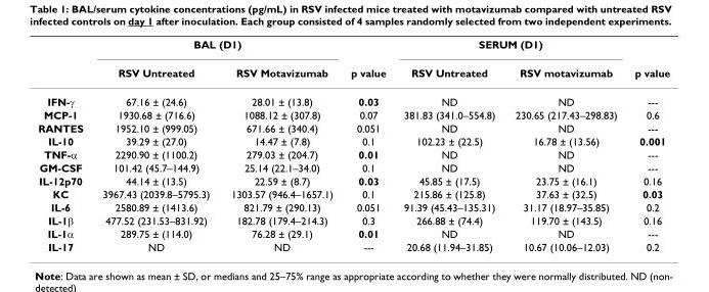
<table><thead><tr><td rowspan="2"></td><td colspan="2">BAL (D1)</td><td rowspan="2">p value</td><td colspan="2">SERUM (D1)</td><td rowspan="2">p value</td></tr><tr><td>RSV Untreated</td><td>RSV Motavizumab</td><td>RSV Untreated</td><td>RSV motavizumab</td></tr></thead><tbody><tr><td>IFN-γ</td><td>67.16 ± (24.6)</td><td>28.01 ± (13.8)</td><td>0.03</td><td>ND</td><td>ND</td><td>---</td></tr><tr><td>MCP-1</td><td>1930.68 ± (716.6)</td><td>1088.12 ± (307.8)</td><td>0.07</td><td>381.83 (341.0–554.8)</td><td>230.65 (217.43–298.83)</td><td>0.6</td></tr><tr><td>RANTES</td><td>1952.10 ± (999.05)</td><td>671.66 ± (340.4)</td><td>0.051</td><td>ND</td><td>ND</td><td>---</td></tr><tr><td>IL-10</td><td>39.29 ± (27.0)</td><td>14.47 ± (7.8)</td><td>0.1</td><td>102.23 ± (22.5)</td><td>16.78 ± (13.56)</td><td>0.001</td></tr><tr><td>TNF-α</td><td>2290.90 ± (1100.2)</td><td>279.03 ± (204.7)</td><td>0.01</td><td>ND</td><td>ND</td><td>---</td></tr><tr><td>GM-CSF</td><td>101.42 (45.7–144.9)</td><td>25.14 (22.1–34.0)</td><td>0.1</td><td>ND</td><td>ND</td><td>---</td></tr><tr><td>IL-12p70</td><td>44.14 ± (13.5)</td><td>22.59 ± (8.7)</td><td>0.03</td><td>45.85 ± (17.5)</td><td>23.75 ± (16.1)</td><td>0.16</td></tr><tr><td>KC</td><td>3967.43 (2039.8–5795.3)</td><td>1303.57 (946.4–1657.1)</td><td>0.1</td><td>215.86 ± (125.8)</td><td>37.63 ± (32.5)</td><td>0.03</td></tr><tr><td>IL-6</td><td>2580.89 ± (1413.6)</td><td>821.79 ± (290.13)</td><td>0.051</td><td>91.39 (45.43–135.31)</td><td>31.17 (18.97–35.85)</td><td>0.2</td></tr><tr><td>IL-1β</td><td>477.52 (231.53–831.92)</td><td>182.78 (179.4–214.3)</td><td>0.3</td><td>266.88 ± (74.4)</td><td>119.70 ± (143.5)</td><td>0.16</td></tr><tr><td>IL-1α</td><td>289.75 ± (114.0)</td><td>76.28 ± (29.1)</td><td>0.01</td><td>ND</td><td>ND</td><td>---</td></tr><tr><td>IL-17</td><td>ND</td><td>ND</td><td>---</td><td>20.68 (11.94–31.85)</td><td>10.67 (10.06–12.03)</td><td>0.2</td></tr></tbody></table>